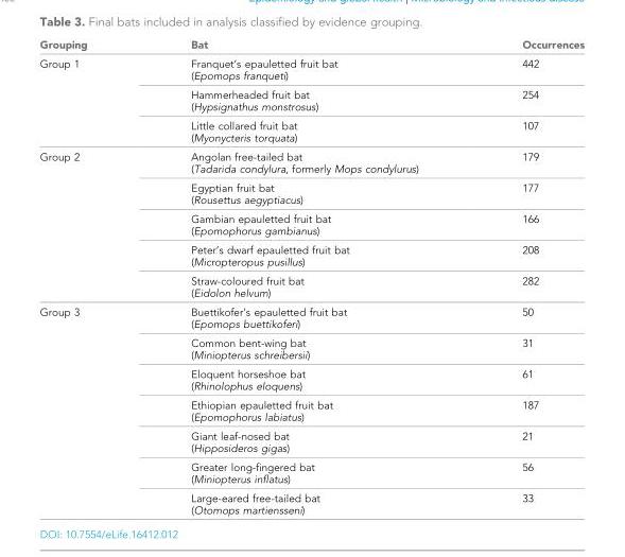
<table><thead><tr><td>Grouping</td><td>Bat</td><td>Occurrences</td></tr></thead><tbody><tr><td rowspan="3">Group 1</td><td>Franquet’s epauletted fruit bat (Epomops franqueti)</td><td>442</td></tr><tr><td>Hammerheaded fruit bat (Hypsignathus monstrosus)</td><td>254</td></tr><tr><td>Little collared fruit bat (Myonycteris torquata)</td><td>107</td></tr><tr><td rowspan="5">Group 2</td><td>Angolan free-tailed bat (Tadarida condylura, formerly Mops condylurus)</td><td>179</td></tr><tr><td>Egyptian fruit bat (Rousettus aegyptiacus)</td><td>177</td></tr><tr><td>Gambian epauletted fruit bat (Epomophorus gambianus)</td><td>166</td></tr><tr><td>Peter’s dwarf epauletted fruit bat (Micropteropus pusillus)</td><td>208</td></tr><tr><td>Straw-coloured fruit bat (Eidolon helvum)</td><td>282</td></tr><tr><td rowspan="7">Group 3</td><td>Buettikofer’s epauletted fruit bat (Epomops buettikoferi)</td><td>50</td></tr><tr><td>Common bent-wing bat (Miniopterus schreibersii)</td><td>31</td></tr><tr><td>Eloquent horseshoe bat (Rhinolophus eloquens)</td><td>61</td></tr><tr><td>Ethiopian epauletted fruit bat (Epomophorus labiatus)</td><td>187</td></tr><tr><td>Giant leaf-nosed bat (Hipposideros gigas)</td><td>21</td></tr><tr><td>Greater long-fingered bat (Miniopterus inflatus)</td><td>56</td></tr><tr><td>Large-eared free-tailed bat (Otomops martiensseni)</td><td>33</td></tr></tbody></table>